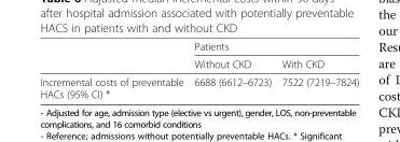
<table><thead><tr><td rowspan="2"></td><td colspan="2">Patients</td></tr><tr><td>Without CKD</td><td>With CKD</td></tr></thead><tbody><tr><td>Incremental costs of preventable HACs (95% CI) *</td><td>6688 (6612–6723)</td><td>7522 (7219–7824)</td></tr></tbody></table>